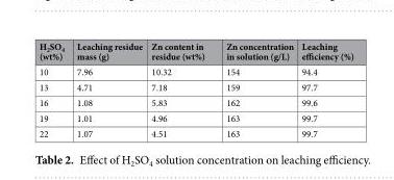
<table><thead><tr><td>H<sub>2</sub>SO<sub>4</sub> (wt%)</td><td>Leaching residue mass (g)</td><td>Zn content in residue (wt%)</td><td>Zn concentration in solution (g/L)</td><td>Leaching efficiency (%)</td></tr></thead><tbody><tr><td>10</td><td>7.96</td><td>10.32</td><td>154</td><td>94.4</td></tr><tr><td>13</td><td>4.71</td><td>7.18</td><td>159</td><td>97.7</td></tr><tr><td>16</td><td>1.08</td><td>5.83</td><td>162</td><td>99.6</td></tr><tr><td>19</td><td>1.01</td><td>4.96</td><td>163</td><td>99.7</td></tr><tr><td>22</td><td>1.07</td><td>4.51</td><td>163</td><td>99.7</td></tr></tbody></table>